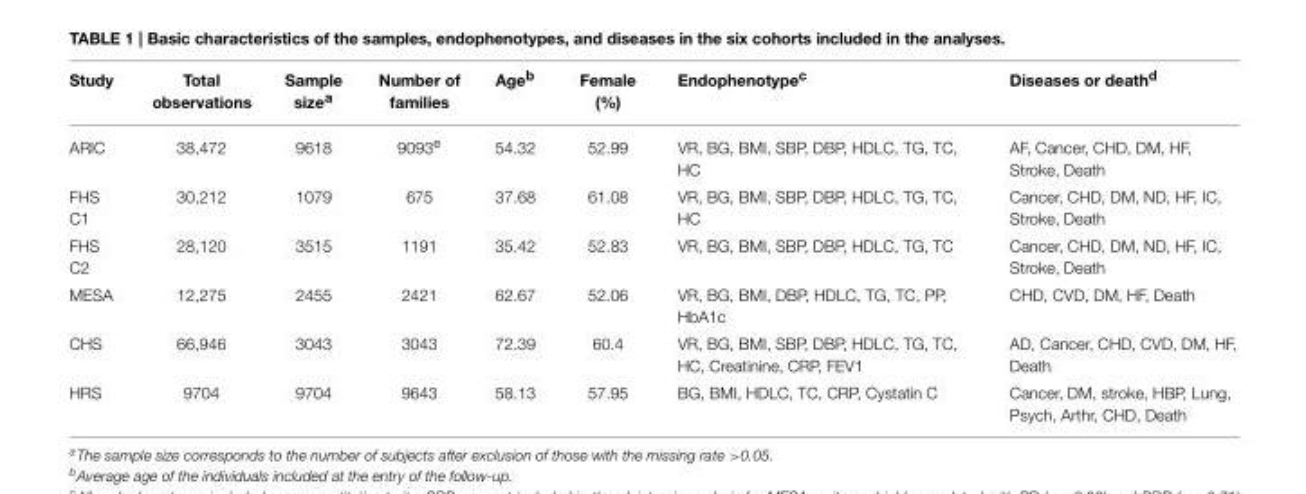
<table><thead><tr><td>Study</td><td>Total observations</td><td>Sample size<sup>a</sup></td><td>Number of families</td><td>Age<sup>b</sup></td><td>Female (%)</td><td>Endophenotype<sup>c</sup></td><td>Diseases or death<sup>d</sup></td></tr></thead><tbody><tr><td>ARIC</td><td>38,472</td><td>9618</td><td>9093<sup>e</sup></td><td>54.32</td><td>52.99</td><td>VR, BG, BMI, SBP, DBP, HDLC, TG, TC, HC</td><td>AF, Cancer, CHD, DM, HF, Stroke, Death</td></tr><tr><td>FHS C1</td><td>30,212</td><td>1079</td><td>675</td><td>37.68</td><td>61.08</td><td>VR, BG, BMI, SBP, DBP, HDLC, TG, TC, HC</td><td>Cancer, CHD, DM, ND, HF, IC, Stroke, Death</td></tr><tr><td>FHS C2</td><td>28,120</td><td>3515</td><td>1191</td><td>35.42</td><td>52.83</td><td>VR, BG, BMI, SBP, DBP, HDLC, TG, TC</td><td>Cancer, CHD, DM, ND, HF, IC, Stroke, Death</td></tr><tr><td>MESA</td><td>12,275</td><td>2455</td><td>2421</td><td>62.67</td><td>52.06</td><td>VR, BG, BMI, DBP, HDLC, TG, TC, PP, HbA1c</td><td>CHD, CVD, DM, HF, Death</td></tr><tr><td>CHS</td><td>66,946</td><td>3043</td><td>3043</td><td>72.39</td><td>60.4</td><td>VR, BG, BMI, SBP, DBP, HDLC, TG, TC, HC, Creatinine, CRP, FEV1</td><td>AD, Cancer, CHD, CVD, DM, HF, Death</td></tr><tr><td>HRS</td><td>9704</td><td>9704</td><td>9643</td><td>58.13</td><td>57.95</td><td>BG, BMI, HDLC, TC, CRP, Cystatin C</td><td>Cancer, DM, stroke, HBP, Lung, Psych, Arthr, CHD, Death</td></tr></tbody></table>